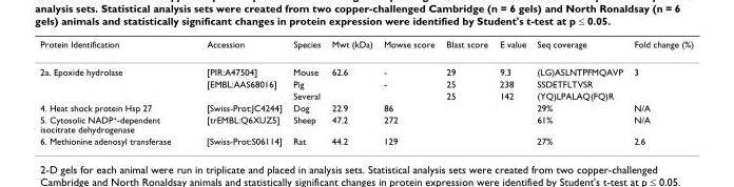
<table><thead><tr><td>Protein Identification</td><td>Accession</td><td>Species</td><td>Mwt (kDa)</td><td>Mowse score</td><td>Blast score</td><td>E value</td><td>Seq coverage</td><td>Fold change (%)</td></tr></thead><tbody><tr><td rowspan="3">2a. Epoxide hydrolase</td><td>[PIR:A47504]</td><td>Mouse</td><td>62.6</td><td>-</td><td>29</td><td>9.3</td><td>(LG)ASLNTPFMQAVP</td><td>3</td></tr><tr><td>[EMBL:AAS68016]</td><td>Pig</td><td></td><td>-</td><td>25</td><td>238</td><td>SSDETFLTVSR</td><td></td></tr><tr><td></td><td>Several</td><td></td><td></td><td>25</td><td>142</td><td>(YQ)LPALAQ(FQ)R</td><td></td></tr><tr><td>4. Heat shock protein Hsp 27</td><td>[Swiss-Prot:JC4244]</td><td>Dog</td><td>22.9</td><td>86</td><td></td><td></td><td>29%</td><td>N/A</td></tr><tr><td>5. Cytosolic NADP<sup>+</sup>-dependent isocitrate dehydrogenase</td><td>[trEMBL:Q6XUZ5]</td><td>Sheep</td><td>47.2</td><td>272</td><td></td><td></td><td>61%</td><td>N/A</td></tr><tr><td>6. Methionine adenosyl transferase</td><td>[Swiss-Prot:S06114]</td><td>Rat</td><td>44.2</td><td>129</td><td></td><td></td><td>27%</td><td>2.6</td></tr></tbody></table>